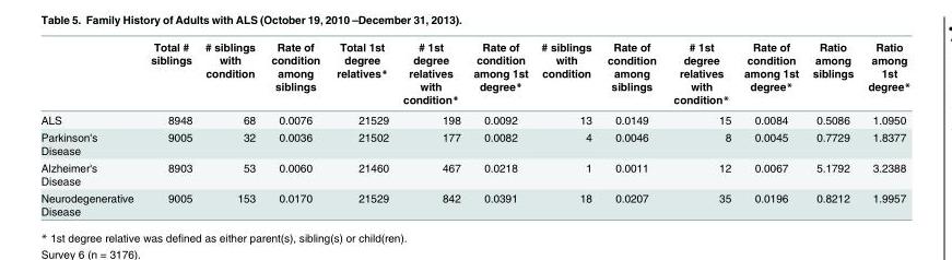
<table><thead><tr><td></td><td>Total # siblings</td><td># siblings with condition</td><td>Rate of condition among siblings</td><td>Total 1st degree relatives*</td><td># 1st degree relatives with condition*</td><td>Rate of condition among 1st degree*</td><td># siblings with condition</td><td>Rate of condition among siblings</td><td># 1st degree relatives with condition*</td><td>Rate of condition among 1st degree*</td><td>Ratio among siblings</td><td>Ratio among 1st degree*</td></tr></thead><tbody><tr><td>ALS</td><td>8948</td><td>68</td><td>0.0076</td><td>21529</td><td>198</td><td>0.0092</td><td>13</td><td>0.0149</td><td>15</td><td>0.0084</td><td>0.5086</td><td>1.0950</td></tr><tr><td>Parkinson&#x27;s Disease</td><td>9005</td><td>32</td><td>0.0036</td><td>21502</td><td>177</td><td>0.0082</td><td>4</td><td>0.0046</td><td>8</td><td>0.0045</td><td>0.7729</td><td>1.8377</td></tr><tr><td>Alzheimer&#x27;s Disease</td><td>8903</td><td>53</td><td>0.0060</td><td>21460</td><td>467</td><td>0.0218</td><td>1</td><td>0.0011</td><td>12</td><td>0.0067</td><td>5.1792</td><td>3.2388</td></tr><tr><td>Neurodegenerative Disease</td><td>9005</td><td>153</td><td>0.0170</td><td>21529</td><td>842</td><td>0.0391</td><td>18</td><td>0.0207</td><td>35</td><td>0.0196</td><td>0.8212</td><td>1.9957</td></tr></tbody></table>